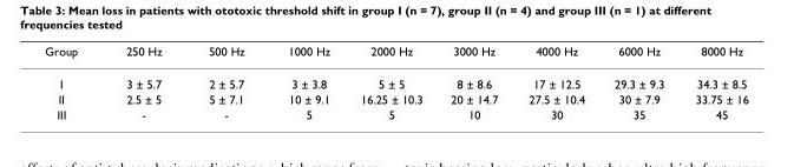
<table><thead><tr><td>Group</td><td>250 Hz</td><td>500 Hz</td><td>1000 Hz</td><td>2000 Hz</td><td>3000 Hz</td><td>4000 Hz</td><td>6000 Hz</td><td>8000 Hz</td></tr></thead><tbody><tr><td>I</td><td>3 ± 5.7</td><td>2 ± 5.7</td><td>3 ± 3.8</td><td>5 ± 5</td><td>8 ± 8.6</td><td>17 ± 12.5</td><td>29.3 ± 9.3</td><td>34.3 ± 8.5</td></tr><tr><td>II</td><td>2.5 ± 5</td><td>5 ± 7.1</td><td>10 ± 9.1</td><td>16.25 ± 10.3</td><td>20 ± 14.7</td><td>27.5 ± 10.4</td><td>30 ± 7.9</td><td>33.75 ± 16</td></tr><tr><td>III</td><td>-</td><td>-</td><td>5</td><td>5</td><td>10</td><td>30</td><td>35</td><td>45</td></tr></tbody></table>